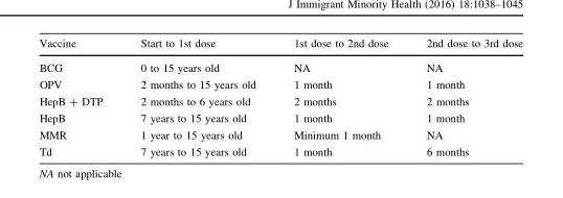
<table><thead><tr><td>Vaccine</td><td>Start to 1st dose</td><td>1st dose to 2nd dose</td><td>2nd dose to 3rd dose</td></tr></thead><tbody><tr><td>BCG</td><td>0 to 15 years old</td><td>NA</td><td>NA</td></tr><tr><td>OPV</td><td>2 months to 15 years old</td><td>1 month</td><td>1 month</td></tr><tr><td>HepB + DTP</td><td>2 months to 6 years old</td><td>2 months</td><td>2 months</td></tr><tr><td>HepB</td><td>7 years to 15 years old</td><td>1 month</td><td>1 month</td></tr><tr><td>MMR</td><td>1 year to 15 years old</td><td>Minimum 1 month</td><td>NA</td></tr><tr><td>Td</td><td>7 years to 15 years old</td><td>1 month</td><td>6 months</td></tr></tbody></table>